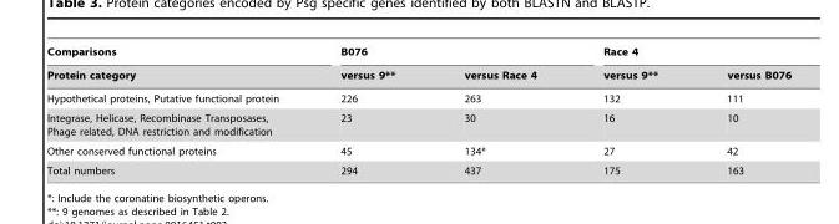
<table><thead><tr><td rowspan="2">Comparisons Protein category</td><td colspan="2">B076</td><td colspan="2">Race 4</td></tr><tr><td>versus 9**</td><td>versus Race 4</td><td>versus 9**</td><td>versus B076</td></tr></thead><tbody><tr><td>Hypothetical proteins, Putative functional protein</td><td>226</td><td>263</td><td>132</td><td>111</td></tr><tr><td>Integrase, Helicase, Recombinase Transposases, Phage related, DNA restriction and modification</td><td>23</td><td>30</td><td>16</td><td>10</td></tr><tr><td>Other conserved functional proteins</td><td>45</td><td>134*</td><td>27</td><td>42</td></tr><tr><td>Total numbers</td><td>294</td><td>437</td><td>175</td><td>163</td></tr></tbody></table>